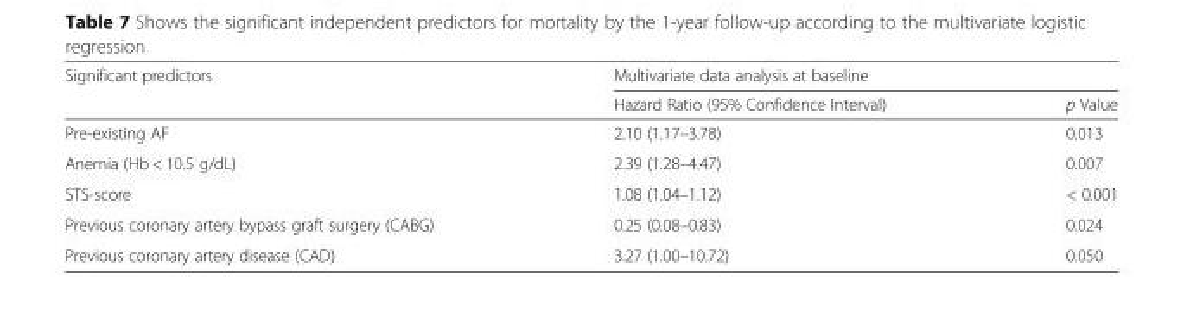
<table><thead><tr><td rowspan="2">Significant predictors</td><td colspan="2">Multivariate data analysis at baseline</td></tr><tr><td>Hazard Ratio (95% Confidence Interval)</td><td>p Value</td></tr></thead><tbody><tr><td>Pre-existing AF</td><td>2.10 (1.17–3.78)</td><td>0.013</td></tr><tr><td>Anemia (Hb &lt; 10.5 g/dL)</td><td>2.39 (1.28–4.47)</td><td>0.007</td></tr><tr><td>STS-score</td><td>1.08 (1.04–1.12)</td><td>&lt; 0.001</td></tr><tr><td>Previous coronary artery bypass graft surgery (CABG)</td><td>0.25 (0.08–0.83)</td><td>0.024</td></tr><tr><td>Previous coronary artery disease (CAD)</td><td>3.27 (1.00–10.72)</td><td>0.050</td></tr></tbody></table>